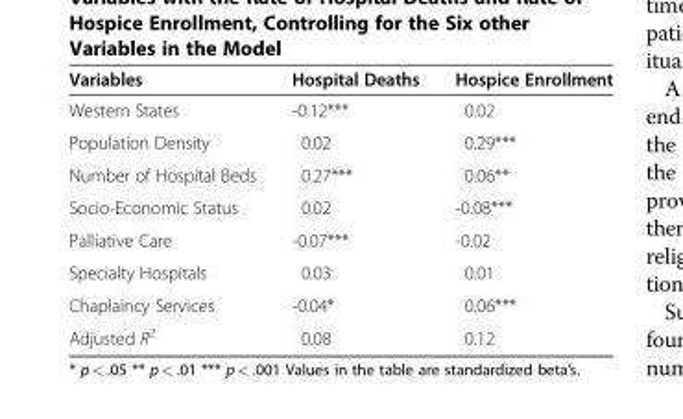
<table><thead><tr><td>Variables</td><td>Hospital Deaths</td><td>Hospice Enrollment</td></tr></thead><tbody><tr><td>Western States</td><td>-0.12***</td><td>0.02</td></tr><tr><td>Population Density</td><td>0.02</td><td>0.29***</td></tr><tr><td>Number of Hospital Beds</td><td>0.27***</td><td>0.06**</td></tr><tr><td>Socio-Economic Status</td><td>0.02</td><td>-0.08***</td></tr><tr><td>Palliative Care</td><td>-0.07***</td><td>-0.02</td></tr><tr><td>Specialty Hospitals</td><td>0.03</td><td>0.01</td></tr><tr><td>Chaplaincy Services</td><td>-0.04*</td><td>0.06***</td></tr><tr><td>Adjusted R<sup>2</sup></td><td>0.08</td><td>0.12</td></tr></tbody></table>